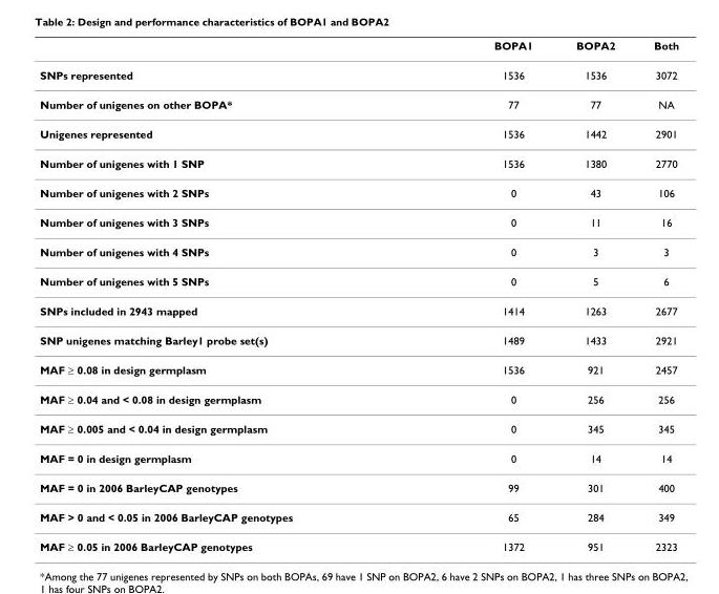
<table><thead><tr><td></td><td>BOPA1</td><td>BOPA2</td><td>Both</td></tr></thead><tbody><tr><td>SNPs represented</td><td>1536</td><td>1536</td><td>3072</td></tr><tr><td>Number of unigenes on other BOPA*</td><td>77</td><td>77</td><td>NA</td></tr><tr><td>Unigenes represented</td><td>1536</td><td>1442</td><td>2901</td></tr><tr><td>Number of unigenes with 1 SNP</td><td>1536</td><td>1380</td><td>2770</td></tr><tr><td>Number of unigenes with 2 SNPs</td><td>0</td><td>43</td><td>106</td></tr><tr><td>Number of unigenes with 3 SNPs</td><td>0</td><td>11</td><td>16</td></tr><tr><td>Number of unigenes with 4 SNPs</td><td>0</td><td>3</td><td>3</td></tr><tr><td>Number of unigenes with 5 SNPs</td><td>0</td><td>5</td><td>6</td></tr><tr><td>SNPs included in 2943 mapped</td><td>1414</td><td>1263</td><td>2677</td></tr><tr><td>SNP unigenes matching Barley1 probe set(s)</td><td>1489</td><td>1433</td><td>2921</td></tr><tr><td>MAF ≥ 0.08 in design germplasm</td><td>1536</td><td>921</td><td>2457</td></tr><tr><td>MAF ≥ 0.04 and &lt; 0.08 in design germplasm</td><td>0</td><td>256</td><td>256</td></tr><tr><td>MAF ≥ 0.005 and &lt; 0.04 in design germplasm</td><td>0</td><td>345</td><td>345</td></tr><tr><td>MAF = 0 in design germplasm</td><td>0</td><td>14</td><td>14</td></tr><tr><td>MAF = 0 in 2006 BarleyCAP genotypes</td><td>99</td><td>301</td><td>400</td></tr><tr><td>MAF &gt; 0 and &lt; 0.05 in 2006 BarleyCAP genotypes</td><td>65</td><td>284</td><td>349</td></tr><tr><td>MAF ≥ 0.05 in 2006 BarleyCAP genotypes</td><td>1372</td><td>951</td><td>2323</td></tr></tbody></table>